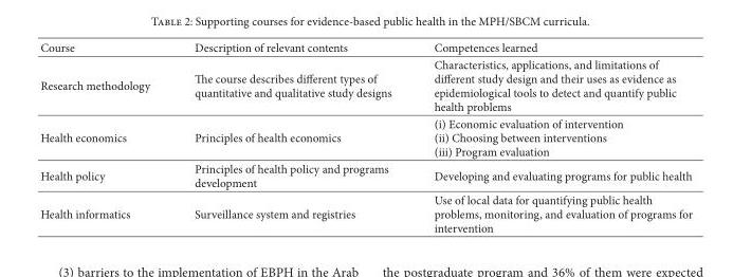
<table><thead><tr><td>Course</td><td>Description of relevant contents</td><td>Competences learned</td></tr></thead><tbody><tr><td>Research methodology</td><td>The course describes different types of quantitative and qualitative study designs</td><td>Characteristics, applications, and limitations of different study design and their uses as evidence as epidemiological tools to detect and quantify public health problems</td></tr><tr><td>Health economics</td><td>Principles of health economics</td><td>(i) Economic evaluation of intervention (ii) Choosing between interventions (iii) Program evaluation</td></tr><tr><td>Health policy</td><td>Principles of health policy and programs development</td><td>Developing and evaluating programs for public health</td></tr><tr><td>Health informatics</td><td>Surveillance system and registries</td><td>Use of local data for quantifying public health problems, monitoring, and evaluation of programs for intervention</td></tr></tbody></table>